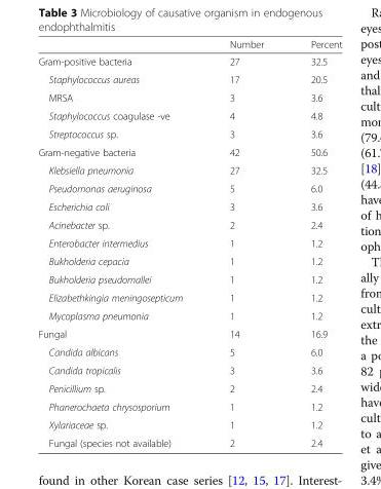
<table><thead><tr><td></td><td>Number</td><td>Percent</td></tr></thead><tbody><tr><td>Gram-positive bacteria</td><td>27</td><td>32.5</td></tr><tr><td>Staphylococcus aureas</td><td>17</td><td>20.5</td></tr><tr><td>MRSA</td><td>3</td><td>3.6</td></tr><tr><td>Staphylococcus coagulase -ve</td><td>4</td><td>4.8</td></tr><tr><td>Streptococcus sp.</td><td>3</td><td>3.6</td></tr><tr><td>Gram-negative bacteria</td><td>42</td><td>50.6</td></tr><tr><td>Klebsiella pneumonia</td><td>27</td><td>32.5</td></tr><tr><td>Pseudomonas aeruginosa</td><td>5</td><td>6.0</td></tr><tr><td>Escherichia coli</td><td>3</td><td>3.6</td></tr><tr><td>Acinebacter sp.</td><td>2</td><td>2.4</td></tr><tr><td>Enterobacter intermedius</td><td>1</td><td>1.2</td></tr><tr><td>Bukholderia cepacia</td><td>1</td><td>1.2</td></tr><tr><td>Bukholderia pseudomallei</td><td>1</td><td>1.2</td></tr><tr><td>Elizabethkingia meningosepticum</td><td>1</td><td>1.2</td></tr><tr><td>Mycoplasma pneumonia</td><td>1</td><td>1.2</td></tr><tr><td>Fungal</td><td>14</td><td>16.9</td></tr><tr><td>Candida albicans</td><td>5</td><td>6.0</td></tr><tr><td>Candida tropicalis</td><td>3</td><td>3.6</td></tr><tr><td>Penicillium sp.</td><td>2</td><td>2.4</td></tr><tr><td>Phanerochaeta chrysosporium</td><td>1</td><td>1.2</td></tr><tr><td>Xylariaceae sp.</td><td>1</td><td>1.2</td></tr><tr><td>Fungal (species not available)</td><td>2</td><td>2.4</td></tr></tbody></table>